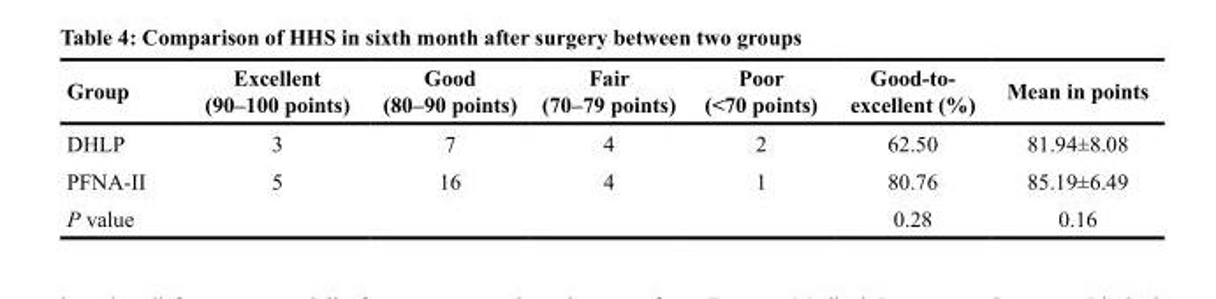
<table><thead><tr><td>Group</td><td>Excellent (90–100 points)</td><td>Good (80–90 points)</td><td>Fair (70–79 points)</td><td>Poor (&lt;70 points)</td><td>Good-to- excellent (%)</td><td>Mean in points</td></tr></thead><tbody><tr><td>DHLP</td><td>3</td><td>7</td><td>4</td><td>2</td><td>62.50</td><td>81.94±8.08</td></tr><tr><td>PFNA-II</td><td>5</td><td>16</td><td>4</td><td>1</td><td>80.76</td><td>85.19±6.49</td></tr><tr><td>P value</td><td></td><td></td><td></td><td></td><td>0.28</td><td>0.16</td></tr></tbody></table>